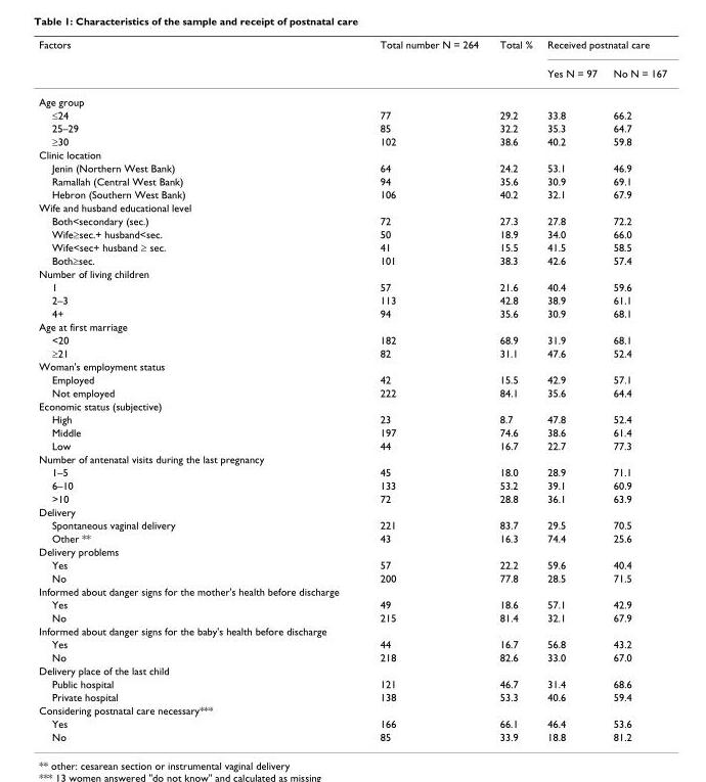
<table><thead><tr><td rowspan="2">Factors</td><td rowspan="2">Total number N = 264</td><td rowspan="2">Total %</td><td colspan="2">Received postnatal care</td></tr><tr><td>Yes N = 97</td><td>No N = 167</td></tr></thead><tbody><tr><td colspan="5">Age group</td></tr><tr><td>≤24</td><td>77</td><td>29.2</td><td>33.8</td><td>66.2</td></tr><tr><td>25–29</td><td>85</td><td>32.2</td><td>35.3</td><td>64.7</td></tr><tr><td>≥30</td><td>102</td><td>38.6</td><td>40.2</td><td>59.8</td></tr><tr><td colspan="5">Clinic location</td></tr><tr><td>Jenin (Northern West Bank)</td><td>64</td><td>24.2</td><td>53.1</td><td>46.9</td></tr><tr><td>Ramallah (Central West Bank)</td><td>94</td><td>35.6</td><td>30.9</td><td>69.1</td></tr><tr><td>Hebron (Southern West Bank)</td><td>106</td><td>40.2</td><td>32.1</td><td>67.9</td></tr><tr><td colspan="5">Wife and husband educational level</td></tr><tr><td>Both&lt;secondary (sec.)</td><td>72</td><td>27.3</td><td>27.8</td><td>72.2</td></tr><tr><td>Wife≥sec.+ husband&lt;sec.</td><td>50</td><td>18.9</td><td>34.0</td><td>66.0</td></tr><tr><td>Wife&lt;sec+ husband ≥ sec.</td><td>41</td><td>15.5</td><td>41.5</td><td>58.5</td></tr><tr><td>Both≥sec.</td><td>101</td><td>38.3</td><td>42.6</td><td>57.4</td></tr><tr><td colspan="5">Number of living children</td></tr><tr><td>1</td><td>57</td><td>21.6</td><td>40.4</td><td>59.6</td></tr><tr><td>2–3</td><td>113</td><td>42.8</td><td>38.9</td><td>61.1</td></tr><tr><td>4+</td><td>94</td><td>35.6</td><td>30.9</td><td>68.1</td></tr><tr><td colspan="5">Age at first marriage</td></tr><tr><td>&lt;20</td><td>182</td><td>68.9</td><td>31.9</td><td>68.1</td></tr><tr><td>≥21</td><td>82</td><td>31.1</td><td>47.6</td><td>52.4</td></tr><tr><td colspan="5">Woman&#x27;s employment status</td></tr><tr><td>Employed</td><td>42</td><td>15.5</td><td>42.9</td><td>57.1</td></tr><tr><td>Not employed</td><td>222</td><td>84.1</td><td>35.6</td><td>64.4</td></tr><tr><td colspan="5">Economic status (subjective)</td></tr><tr><td>High</td><td>23</td><td>8.7</td><td>47.8</td><td>52.4</td></tr><tr><td>Middle</td><td>197</td><td>74.6</td><td>38.6</td><td>61.4</td></tr><tr><td>Low</td><td>44</td><td>16.7</td><td>22.7</td><td>77.3</td></tr><tr><td colspan="5">Number of antenatal visits during the last pregnancy</td></tr><tr><td>1–5</td><td>45</td><td>18.0</td><td>28.9</td><td>71.1</td></tr><tr><td>6–10</td><td>133</td><td>53.2</td><td>39.1</td><td>60.9</td></tr><tr><td>&gt;10</td><td>72</td><td>28.8</td><td>36.1</td><td>63.9</td></tr><tr><td colspan="5">Delivery</td></tr><tr><td>Spontaneous vaginal delivery</td><td>221</td><td>83.7</td><td>29.5</td><td>70.5</td></tr><tr><td>Other **</td><td>43</td><td>16.3</td><td>74.4</td><td>25.6</td></tr><tr><td colspan="5">Delivery problems</td></tr><tr><td>Yes</td><td>57</td><td>22.2</td><td>59.6</td><td>40.4</td></tr><tr><td>No</td><td>200</td><td>77.8</td><td>28.5</td><td>71.5</td></tr><tr><td colspan="5">Informed about danger signs for the mother&#x27;s health before discharge</td></tr><tr><td>Yes</td><td>49</td><td>18.6</td><td>57.1</td><td>42.9</td></tr><tr><td>No</td><td>215</td><td>81.4</td><td>32.1</td><td>67.9</td></tr><tr><td colspan="5">Informed about danger signs for the baby&#x27;s health before discharge</td></tr><tr><td>Yes</td><td>44</td><td>16.7</td><td>56.8</td><td>43.2</td></tr><tr><td>No</td><td>218</td><td>82.6</td><td>33.0</td><td>67.0</td></tr><tr><td colspan="5">Delivery place of the last child</td></tr><tr><td>Public hospital</td><td>121</td><td>46.7</td><td>31.4</td><td>68.6</td></tr><tr><td>Private hospital</td><td>138</td><td>53.3</td><td>40.6</td><td>59.4</td></tr><tr><td colspan="5">Considering postnatal care necessary***</td></tr><tr><td>Yes</td><td>166</td><td>66.1</td><td>46.4</td><td>53.6</td></tr><tr><td>No</td><td>85</td><td>33.9</td><td>18.8</td><td>81.2</td></tr></tbody></table>